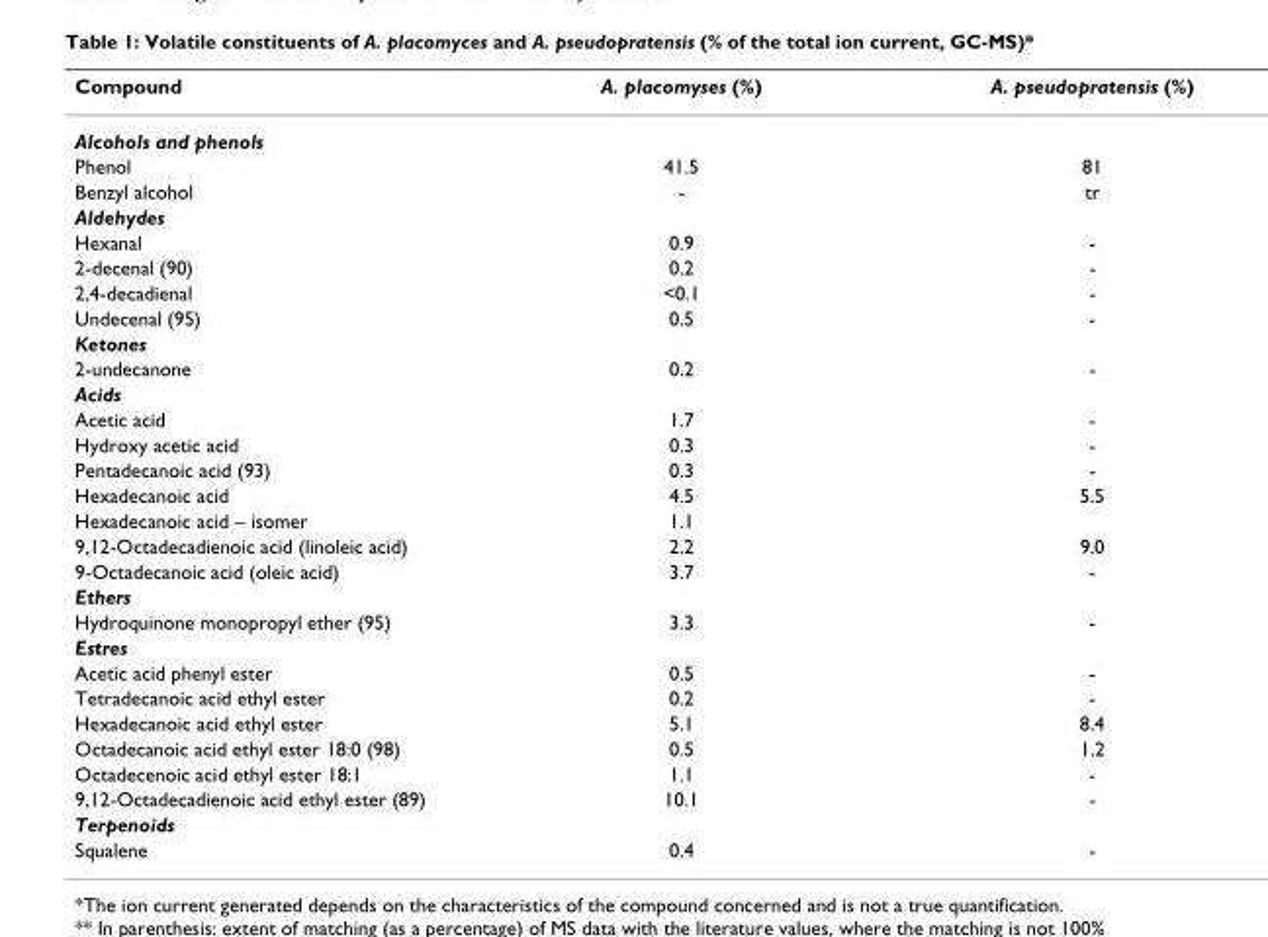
<table><thead><tr><td>Compound</td><td>A. placomyses (%)</td><td>A. pseudopratensis (%)</td></tr></thead><tbody><tr><td colspan="3">Alcohols and phenols</td></tr><tr><td>Phenol</td><td>41.5</td><td>81</td></tr><tr><td>Benzyl alcohol</td><td>-</td><td>tr</td></tr><tr><td colspan="3">Aldehydes</td></tr><tr><td>Hexanal</td><td>0.9</td><td>-</td></tr><tr><td>2-decenal (90)</td><td>0.2</td><td>-</td></tr><tr><td>2,4-decadienal</td><td>&lt;0.1</td><td>-</td></tr><tr><td>Undecenal (95)</td><td>0.5</td><td>-</td></tr><tr><td colspan="3">Ketones</td></tr><tr><td>2-undecanone</td><td>0.2</td><td>-</td></tr><tr><td colspan="3">Acids</td></tr><tr><td>Acetic acid</td><td>1.7</td><td>-</td></tr><tr><td>Hydroxy acetic acid</td><td>0.3</td><td>-</td></tr><tr><td>Pentadecanoic acid (93)</td><td>0.3</td><td>-</td></tr><tr><td>Hexadecanoic acid</td><td>4.5</td><td>5.5</td></tr><tr><td>Hexadecanoic acid – isomer</td><td>1.1</td><td></td></tr><tr><td>9,12-Octadecadienoic acid (linoleic acid)</td><td>2.2</td><td>9.0</td></tr><tr><td>9-Octadecanoic acid (oleic acid)</td><td>3.7</td><td>-</td></tr><tr><td colspan="3">Ethers</td></tr><tr><td>Hydroquinone monopropyl ether (95)</td><td>3.3</td><td>-</td></tr><tr><td colspan="3">Estres</td></tr><tr><td>Acetic acid phenyl ester</td><td>0.5</td><td>-</td></tr><tr><td>Tetradecanoic acid ethyl ester</td><td>0.2</td><td>-</td></tr><tr><td>Hexadecanoic acid ethyl ester</td><td>5.1</td><td>8.4</td></tr><tr><td>Octadecanoic acid ethyl ester 18:0 (98)</td><td>0.5</td><td>1.2</td></tr><tr><td>Octadecenoic acid ethyl ester 18:1</td><td>1.1</td><td>-</td></tr><tr><td>9,12-Octadecadienoic acid ethyl ester (89)</td><td>10.1</td><td>-</td></tr><tr><td colspan="3">Terpenoids</td></tr><tr><td>Squalene</td><td>0.4</td><td>-</td></tr></tbody></table>